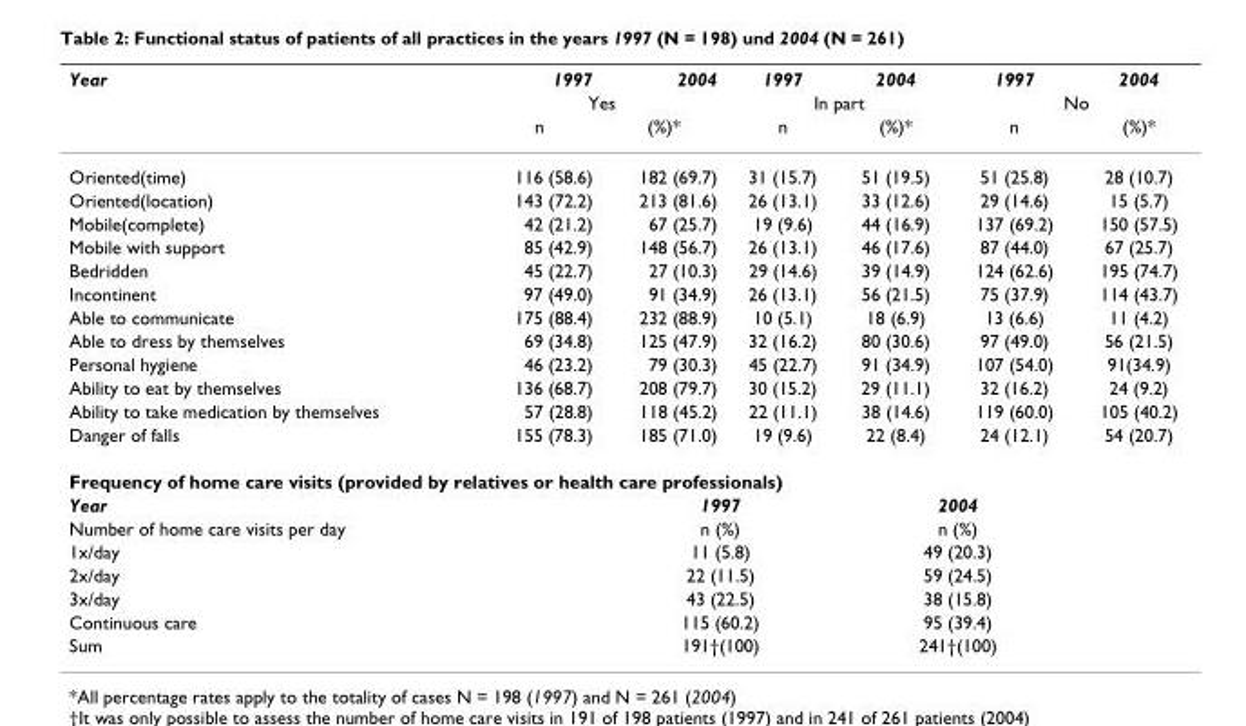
<table><thead><tr><td rowspan="3">Year</td><td>1997</td><td>2004</td><td>1997</td><td>2004</td><td>1997</td><td>2004</td></tr><tr><td colspan="2">Yes</td><td colspan="2">In part</td><td colspan="2">No</td></tr><tr><td>n</td><td>(%)*</td><td>n</td><td>(%)*</td><td>n</td><td>(%)*</td></tr></thead><tbody><tr><td>Oriented(time)</td><td>116 (58.6)</td><td>182 (69.7)</td><td>31 (15.7)</td><td>51 (19.5)</td><td>51 (25.8)</td><td>28 (10.7)</td></tr><tr><td>Oriented(location)</td><td>143 (72.2)</td><td>213 (81.6)</td><td>26 (13.1)</td><td>33 (12.6)</td><td>29 (14.6)</td><td>15 (5.7)</td></tr><tr><td>Mobile(complete)</td><td>42 (21.2)</td><td>67 (25.7)</td><td>19 (9.6)</td><td>44 (16.9)</td><td>137 (69.2)</td><td>150 (57.5)</td></tr><tr><td>Mobile with support</td><td>85 (42.9)</td><td>148 (56.7)</td><td>26 (13.1)</td><td>46 (17.6)</td><td>87 (44.0)</td><td>67 (25.7)</td></tr><tr><td>Bedridden</td><td>45 (22.7)</td><td>27 (10.3)</td><td>29 (14.6)</td><td>39 (14.9)</td><td>124 (62.6)</td><td>195 (74.7)</td></tr><tr><td>Incontinent</td><td>97 (49.0)</td><td>91 (34.9)</td><td>26 (13.1)</td><td>56 (21.5)</td><td>75 (37.9)</td><td>114 (43.7)</td></tr><tr><td>Able to communicate</td><td>175 (88.4)</td><td>232 (88.9)</td><td>10 (5.1)</td><td>18 (6.9)</td><td>13 (6.6)</td><td>11 (4.2)</td></tr><tr><td>Able to dress by themselves</td><td>69 (34.8)</td><td>125 (47.9)</td><td>32 (16.2)</td><td>80 (30.6)</td><td>97 (49.0)</td><td>56 (21.5)</td></tr><tr><td>Personal hygiene</td><td>46 (23.2)</td><td>79 (30.3)</td><td>45 (22.7)</td><td>91 (34.9)</td><td>107 (54.0)</td><td>91(34.9)</td></tr><tr><td>Ability to eat by themselves</td><td>136 (68.7)</td><td>208 (79.7)</td><td>30 (15.2)</td><td>29 (11.1)</td><td>32 (16.2)</td><td>24 (9.2)</td></tr><tr><td>Ability to take medication by themselves</td><td>57 (28.8)</td><td>118 (45.2)</td><td>22 (11.1)</td><td>38 (14.6)</td><td>119 (60.0)</td><td>105 (40.2)</td></tr><tr><td>Danger of falls</td><td>155 (78.3)</td><td>185 (71.0)</td><td>19 (9.6)</td><td>22 (8.4)</td><td>24 (12.1)</td><td>54 (20.7)</td></tr><tr><td colspan="7">Frequency of home care visits (provided by relatives or health care professionals)</td></tr><tr><td colspan="2">Year</td><td colspan="2">1997</td><td colspan="2">2004</td><td></td></tr><tr><td colspan="2">Number of home care visits per day</td><td colspan="2">n (%)</td><td colspan="2">n (%)</td><td></td></tr><tr><td colspan="2">1x/day</td><td colspan="2">11 (5.8)</td><td colspan="2">49 (20.3)</td><td></td></tr><tr><td colspan="2">2x/day</td><td colspan="2">22 (11.5)</td><td colspan="2">59 (24.5)</td><td></td></tr><tr><td colspan="2">3x/day</td><td colspan="2">43 (22.5)</td><td colspan="2">38 (15.8)</td><td></td></tr><tr><td colspan="2">Continuous care</td><td colspan="2">115 (60.2)</td><td colspan="2">95 (39.4)</td><td></td></tr><tr><td colspan="2">Sum</td><td colspan="2">191†(100)</td><td colspan="2">241†(100)</td><td></td></tr></tbody></table>